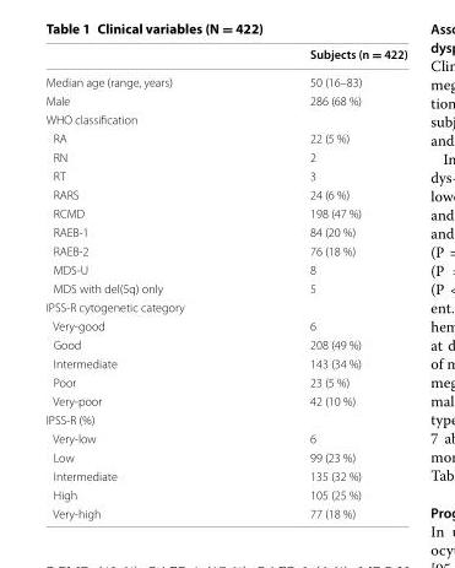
<table><thead><tr><td></td><td>Subjects (n = 422)</td></tr></thead><tbody><tr><td>Median age (range, years)</td><td>50 (16–83)</td></tr><tr><td>Male</td><td>286 (68 %)</td></tr><tr><td colspan="2">WHO classification</td></tr><tr><td>RA</td><td>22 (5 %)</td></tr><tr><td>RN</td><td>2</td></tr><tr><td>RT</td><td>3</td></tr><tr><td>RARS</td><td>24 (6 %)</td></tr><tr><td>RCMD</td><td>198 (47 %)</td></tr><tr><td>RAEB-1</td><td>84 (20 %)</td></tr><tr><td>RAEB-2</td><td>76 (18 %)</td></tr><tr><td>MDS-U</td><td>8</td></tr><tr><td>MDS with del(5q) only</td><td>5</td></tr><tr><td colspan="2">IPSS-R cytogenetic category</td></tr><tr><td>Very-good</td><td>6</td></tr><tr><td>Good</td><td>208 (49 %)</td></tr><tr><td>Intermediate</td><td>143 (34 %)</td></tr><tr><td>Poor</td><td>23 (5 %)</td></tr><tr><td>Very-poor</td><td>42 (10 %)</td></tr><tr><td colspan="2">IPSS-R (%)</td></tr><tr><td>Very-low</td><td>6</td></tr><tr><td>Low</td><td>99 (23 %)</td></tr><tr><td>Intermediate</td><td>135 (32 %)</td></tr><tr><td>High</td><td>105 (25 %)</td></tr><tr><td>Very-high</td><td>77 (18 %)</td></tr></tbody></table>